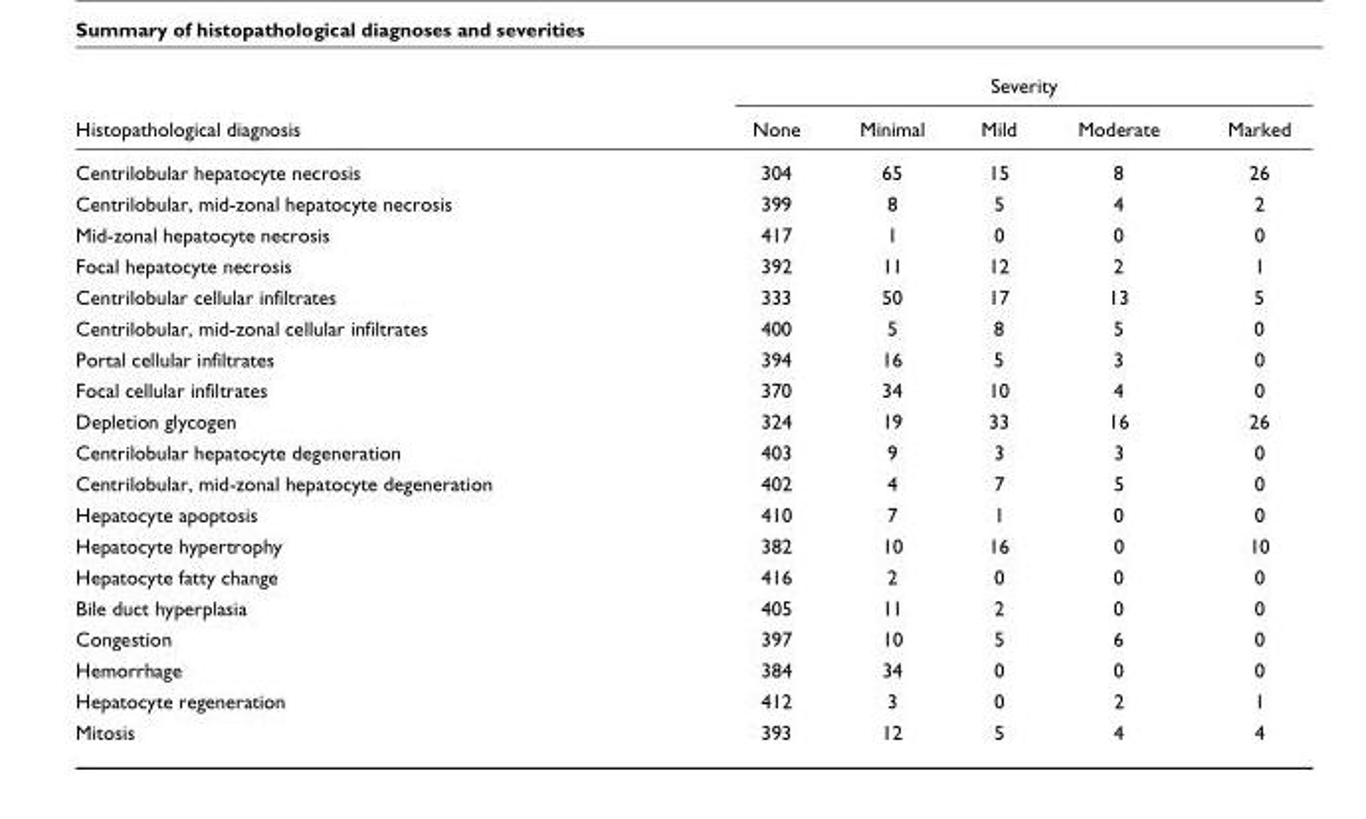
<table><thead><tr><td rowspan="2">Histopathological diagnosis</td><td colspan="5">Severity</td></tr><tr><td>None</td><td>Minimal</td><td>Mild</td><td>Moderate</td><td>Marked</td></tr></thead><tbody><tr><td>Centrilobular hepatocyte necrosis</td><td>304</td><td>65</td><td>15</td><td>8</td><td>26</td></tr><tr><td>Centrilobular, mid-zonal hepatocyte necrosis</td><td>399</td><td>8</td><td>5</td><td>4</td><td>2</td></tr><tr><td>Mid-zonal hepatocyte necrosis</td><td>417</td><td>1</td><td>0</td><td>0</td><td>0</td></tr><tr><td>Focal hepatocyte necrosis</td><td>392</td><td>11</td><td>12</td><td>2</td><td>1</td></tr><tr><td>Centrilobular cellular infiltrates</td><td>333</td><td>50</td><td>17</td><td>13</td><td>5</td></tr><tr><td>Centrilobular, mid-zonal cellular infiltrates</td><td>400</td><td>5</td><td>8</td><td>5</td><td>0</td></tr><tr><td>Portal cellular infiltrates</td><td>394</td><td>16</td><td>5</td><td>3</td><td>0</td></tr><tr><td>Focal cellular infiltrates</td><td>370</td><td>34</td><td>10</td><td>4</td><td>0</td></tr><tr><td>Depletion glycogen</td><td>324</td><td>19</td><td>33</td><td>16</td><td>26</td></tr><tr><td>Centrilobular hepatocyte degeneration</td><td>403</td><td>9</td><td>3</td><td>3</td><td>0</td></tr><tr><td>Centrilobular, mid-zonal hepatocyte degeneration</td><td>402</td><td>4</td><td>7</td><td>5</td><td>0</td></tr><tr><td>Hepatocyte apoptosis</td><td>410</td><td>7</td><td>1</td><td>0</td><td>0</td></tr><tr><td>Hepatocyte hypertrophy</td><td>382</td><td>10</td><td>16</td><td>0</td><td>10</td></tr><tr><td>Hepatocyte fatty change</td><td>416</td><td>2</td><td>0</td><td>0</td><td>0</td></tr><tr><td>Bile duct hyperplasia</td><td>405</td><td>11</td><td>2</td><td>0</td><td>0</td></tr><tr><td>Congestion</td><td>397</td><td>10</td><td>5</td><td>6</td><td>0</td></tr><tr><td>Hemorrhage</td><td>384</td><td>34</td><td>0</td><td>0</td><td>0</td></tr><tr><td>Hepatocyte regeneration</td><td>412</td><td>3</td><td>0</td><td>2</td><td>1</td></tr><tr><td>Mitosis</td><td>393</td><td>12</td><td>5</td><td>4</td><td>4</td></tr></tbody></table>